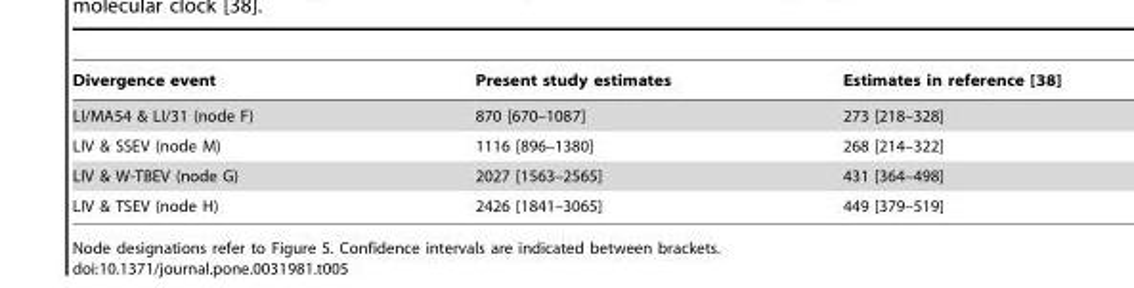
<table><thead><tr><td>Divergence event</td><td>Present study estimates</td><td>Estimates in reference [38]</td></tr></thead><tbody><tr><td>LI/MA54 &amp; LI/31 (node F)</td><td>870 [670–1087]</td><td>273 [218–328]</td></tr><tr><td>LIV &amp; SSEV (node M)</td><td>1116 [896–1380]</td><td>268 [214–322]</td></tr><tr><td>LIV &amp; W-TBEV (node G)</td><td>2027 [1563–2565]</td><td>431 [364–498]</td></tr><tr><td>LIV &amp; TSEV (node H)</td><td>2426 [1841–3065]</td><td>449 [379–519]</td></tr></tbody></table>